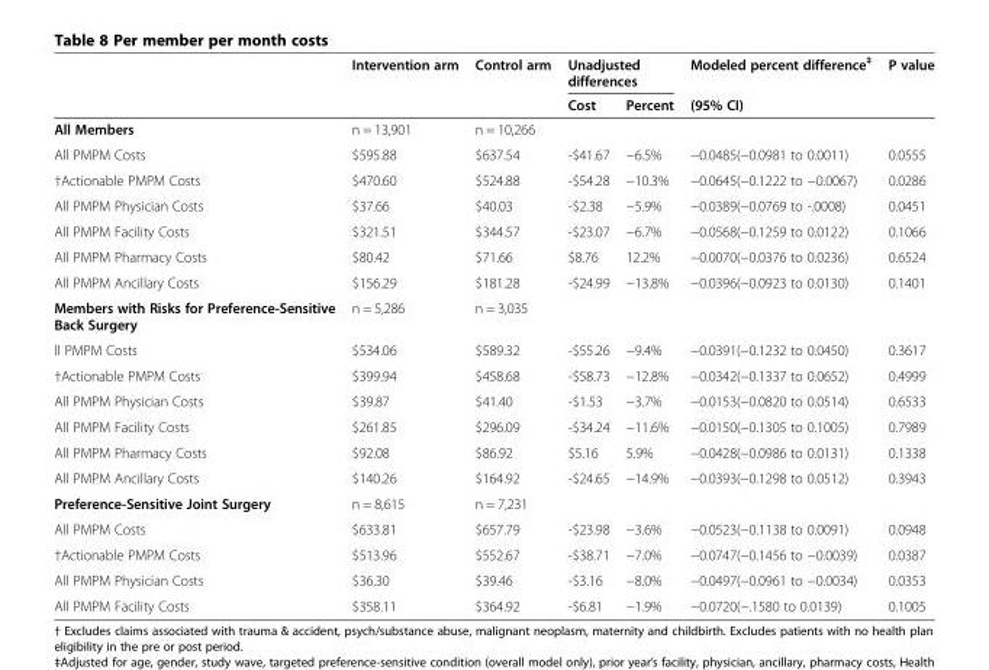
<table><thead><tr><td rowspan="2"></td><td rowspan="2">Intervention arm</td><td rowspan="2">Control arm</td><td colspan="2">Unadjusted differences</td><td rowspan="2">Modeled percent difference<sup>‡</sup> (95% CI)</td><td rowspan="2">P value</td></tr><tr><td>Cost</td><td>Percent</td></tr></thead><tbody><tr><td>All Members</td><td>n = 13,901</td><td>n = 10,266</td><td></td><td></td><td></td><td></td></tr><tr><td>All PMPM Costs</td><td>$595.88</td><td>$637.54</td><td>-$41.67</td><td>−6.5%</td><td>−0.0485(−0.0981 to 0.0011)</td><td>0.0555</td></tr><tr><td>†Actionable PMPM Costs</td><td>$470.60</td><td>$524.88</td><td>-$54.28</td><td>−10.3%</td><td>−0.0645(−0.1222 to −0.0067)</td><td>0.0286</td></tr><tr><td>All PMPM Physician Costs</td><td>$37.66</td><td>$40.03</td><td>-$2.38</td><td>−5.9%</td><td>−0.0389(−0.0769 to -.0008)</td><td>0.0451</td></tr><tr><td>All PMPM Facility Costs</td><td>$321.51</td><td>$344.57</td><td>-$23.07</td><td>−6.7%</td><td>−0.0568(−0.1259 to 0.0122)</td><td>0.1066</td></tr><tr><td>All PMPM Pharmacy Costs</td><td>$80.42</td><td>$71.66</td><td>$8.76</td><td>12.2%</td><td>−0.0070(−0.0376 to 0.0236)</td><td>0.6524</td></tr><tr><td>All PMPM Ancillary Costs</td><td>$156.29</td><td>$181.28</td><td>-$24.99</td><td>−13.8%</td><td>−0.0396(−0.0923 to 0.0130)</td><td>0.1401</td></tr><tr><td>Members with Risks for Preference-Sensitive Back Surgery</td><td>n = 5,286</td><td>n = 3,035</td><td></td><td></td><td></td><td></td></tr><tr><td>ll PMPM Costs</td><td>$534.06</td><td>$589.32</td><td>-$55.26</td><td>−9.4%</td><td>−0.0391(−0.1232 to 0.0450)</td><td>0.3617</td></tr><tr><td>†Actionable PMPM Costs</td><td>$399.94</td><td>$458.68</td><td>-$58.73</td><td>−12.8%</td><td>−0.0342(−0.1337 to 0.0652)</td><td>0.4999</td></tr><tr><td>All PMPM Physician Costs</td><td>$39.87</td><td>$41.40</td><td>-$1.53</td><td>−3.7%</td><td>−0.0153(−0.0820 to 0.0514)</td><td>0.6533</td></tr><tr><td>All PMPM Facility Costs</td><td>$261.85</td><td>$296.09</td><td>-$34.24</td><td>−11.6%</td><td>−0.0150(−0.1305 to 0.1005)</td><td>0.7989</td></tr><tr><td>All PMPM Pharmacy Costs</td><td>$92.08</td><td>$86.92</td><td>$5.16</td><td>5.9%</td><td>−0.0428(−0.0986 to 0.0131)</td><td>0.1338</td></tr><tr><td>All PMPM Ancillary Costs</td><td>$140.26</td><td>$164.92</td><td>-$24.65</td><td>−14.9%</td><td>−0.0393(−0.1298 to 0.0512)</td><td>0.3943</td></tr><tr><td>Preference-Sensitive Joint Surgery</td><td>n = 8,615</td><td>n = 7,231</td><td></td><td></td><td></td><td></td></tr><tr><td>All PMPM Costs</td><td>$633.81</td><td>$657.79</td><td>-$23.98</td><td>−3.6%</td><td>−0.0523(−0.1138 to 0.0091)</td><td>0.0948</td></tr><tr><td>†Actionable PMPM Costs</td><td>$513.96</td><td>$552.67</td><td>-$38.71</td><td>−7.0%</td><td>−0.0747(−0.1456 to −0.0039)</td><td>0.0387</td></tr><tr><td>All PMPM Physician Costs</td><td>$36.30</td><td>$39.46</td><td>-$3.16</td><td>−8.0%</td><td>−0.0497(−0.0961 to −0.0034)</td><td>0.0353</td></tr><tr><td>All PMPM Facility Costs</td><td>$358.11</td><td>$364.92</td><td>-$6.81</td><td>−1.9%</td><td>−0.0720(−.1580 to 0.0139)</td><td>0.1005</td></tr></tbody></table>